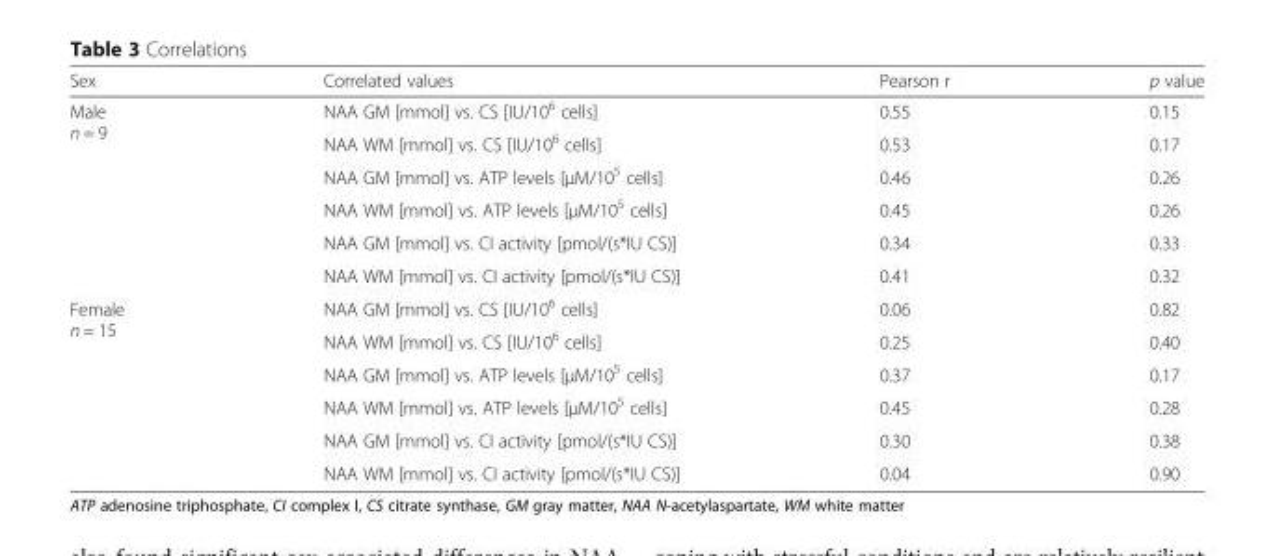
<table><thead><tr><td>Sex</td><td>Correlated values</td><td>Pearson r</td><td>p value</td></tr></thead><tbody><tr><td rowspan="6">Male n = 9</td><td>NAA GM [mmol] vs. CS [IU/10<sup>6</sup> cells]</td><td>0.55</td><td>0.15</td></tr><tr><td>NAA WM [mmol] vs. CS [IU/10<sup>6</sup> cells]</td><td>0.53</td><td>0.17</td></tr><tr><td>NAA GM [mmol] vs. ATP levels [μM/10<sup>5</sup> cells]</td><td>0.46</td><td>0.26</td></tr><tr><td>NAA WM [mmol] vs. ATP levels [μM/10<sup>5</sup> cells]</td><td>0.45</td><td>0.26</td></tr><tr><td>NAA GM [mmol] vs. CI activity [pmol/(s*IU CS)]</td><td>0.34</td><td>0.33</td></tr><tr><td>NAA WM [mmol] vs. CI activity [pmol/(s*IU CS)]</td><td>0.41</td><td>0.32</td></tr><tr><td rowspan="6">Female n = 15</td><td>NAA GM [mmol] vs. CS [IU/10<sup>6</sup> cells]</td><td>0.06</td><td>0.82</td></tr><tr><td>NAA WM [mmol] vs. CS [IU/10<sup>6</sup> cells]</td><td>0.25</td><td>0.40</td></tr><tr><td>NAA GM [mmol] vs. ATP levels [μM/10<sup>5</sup> cells]</td><td>0.37</td><td>0.17</td></tr><tr><td>NAA WM [mmol] vs. ATP levels [μM/10<sup>5</sup> cells]</td><td>0.45</td><td>0.28</td></tr><tr><td>NAA GM [mmol] vs. CI activity [pmol/(s*IU CS)]</td><td>0.30</td><td>0.38</td></tr><tr><td>NAA WM [mmol] vs. CI activity [pmol/(s*IU CS)]</td><td>0.04</td><td>0.90</td></tr></tbody></table>